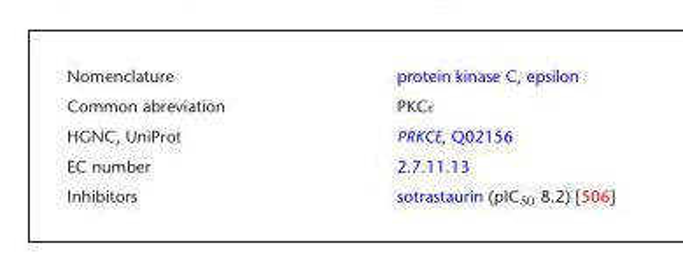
<table><tbody><tr><td>Nomenclature</td><td>protein kinase C, epsilon</td></tr><tr><td>Common abreviation</td><td>PKC</td></tr><tr><td>HGNC, UniProt</td><td>PRKCE, Q02156</td></tr><tr><td>EC number</td><td>2.7.11.13</td></tr><tr><td>Inhibitors</td><td>sotrastaurin (pIC<sub>50</sub> 8.2) [506]</td></tr></tbody></table>